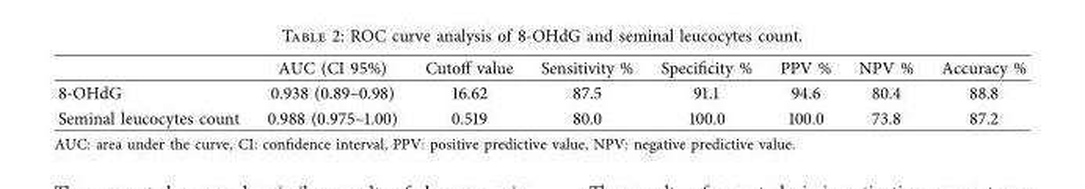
<table><thead><tr><td></td><td>AUC (CI 95%)</td><td>Cutof value</td><td>Sensitivity %</td><td>Specifcity %</td><td>PPV %</td><td>NPV %</td><td>Accuracy %</td></tr></thead><tbody><tr><td>8-OHdG</td><td>0.938 (0.89–0.98)</td><td>16.62</td><td>87.5</td><td>91.1</td><td>94.6</td><td>80.4</td><td>88.8</td></tr><tr><td>Seminal leucocytes count</td><td>0.988 (0.975–1.00)</td><td>0.519</td><td>80.0</td><td>100.0</td><td>100.0</td><td>73.8</td><td>87.2</td></tr></tbody></table>